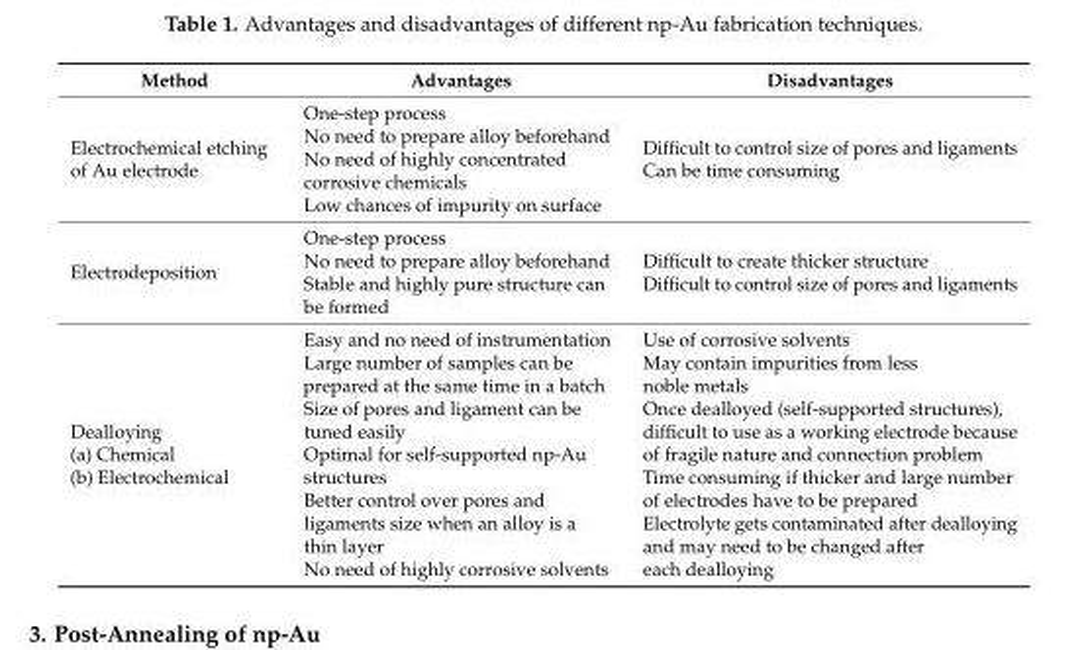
<table><thead><tr><td>Method</td><td>Advantages</td><td>Disadvantages</td></tr></thead><tbody><tr><td>Electrochemical etching of Au electrode</td><td>One-step process No need to prepare alloy beforehand No need of highly concentrated corrosive chemicals Low chances of impurity on surface</td><td>Difficult to control size of pores and ligaments Can be time consuming</td></tr><tr><td>Electrodeposition</td><td>One-step process No need to prepare alloy beforehand Stable and highly pure structure can be formed</td><td>Difficult to create thicker structure Difficult to control size of pores and ligaments</td></tr><tr><td>Dealloying (a) Chemical (b) Electrochemical</td><td>Easy and no need of instrumentation Large number of samples can be prepared at the same time in a batch Size of pores and ligament can be tuned easily Optimal for self-supported np-Au structures Better control over pores and ligaments size when an alloy is a thin layer No need of highly corrosive solvents</td><td>Use of corrosive solvents May contain impurities from less noble metals Once dealloyed (self-supported structures), difficult to use as a working electrode because of fragile nature and connection problem Time consuming if thicker and large number of electrodes have to be prepared Electrolyte gets contaminated after dealloying and may need to be changed after each dealloying</td></tr></tbody></table>